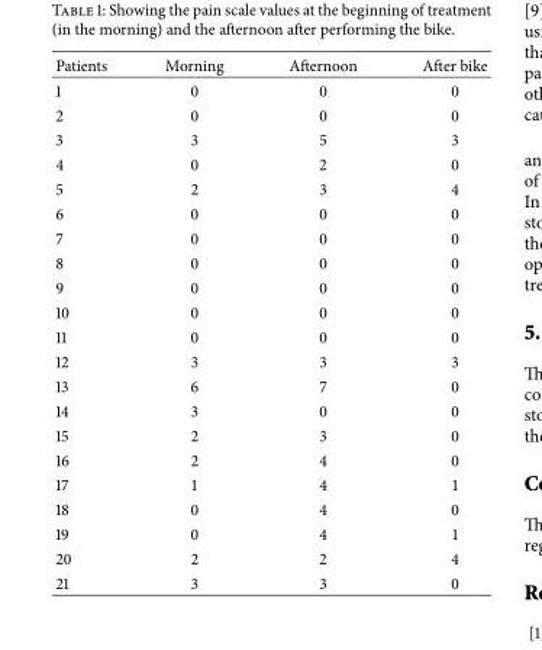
<table><thead><tr><td>Patients</td><td>Morning</td><td>Afternoon</td><td>After bike</td></tr></thead><tbody><tr><td>1</td><td>0</td><td>0</td><td>0</td></tr><tr><td>2</td><td>0</td><td>0</td><td>0</td></tr><tr><td>3</td><td>3</td><td>5</td><td>3</td></tr><tr><td>4</td><td>0</td><td>2</td><td>0</td></tr><tr><td>5</td><td>2</td><td>3</td><td>4</td></tr><tr><td>6</td><td>0</td><td>0</td><td>0</td></tr><tr><td>7</td><td>0</td><td>0</td><td>0</td></tr><tr><td>8</td><td>0</td><td>0</td><td>0</td></tr><tr><td>9</td><td>0</td><td>0</td><td>0</td></tr><tr><td>10</td><td>0</td><td>0</td><td>0</td></tr><tr><td>11</td><td>0</td><td>0</td><td>0</td></tr><tr><td>12</td><td>3</td><td>3</td><td>3</td></tr><tr><td>13</td><td>6</td><td>7</td><td>0</td></tr><tr><td>14</td><td>3</td><td>0</td><td>0</td></tr><tr><td>15</td><td>2</td><td>3</td><td>0</td></tr><tr><td>16</td><td>2</td><td>4</td><td>0</td></tr><tr><td>17</td><td>1</td><td>4</td><td>1</td></tr><tr><td>18</td><td>0</td><td>4</td><td>0</td></tr><tr><td>19</td><td>0</td><td>4</td><td>1</td></tr><tr><td>20</td><td>2</td><td>2</td><td>4</td></tr><tr><td>21</td><td>3</td><td>3</td><td>0</td></tr></tbody></table>